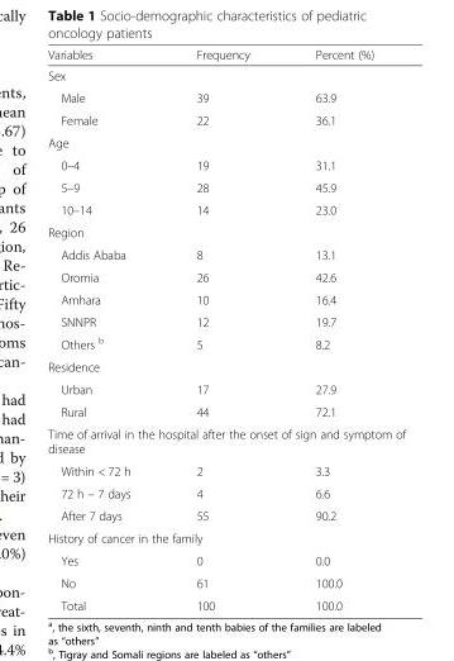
<table><thead><tr><td>Variables</td><td>Frequency</td><td>Percent (%)</td></tr></thead><tbody><tr><td colspan="3">Sex</td></tr><tr><td>Male</td><td>39</td><td>63.9</td></tr><tr><td>Female</td><td>22</td><td>36.1</td></tr><tr><td colspan="3">Age</td></tr><tr><td>0–4</td><td>19</td><td>31.1</td></tr><tr><td>5–9</td><td>28</td><td>45.9</td></tr><tr><td>10–14</td><td>14</td><td>23.0</td></tr><tr><td colspan="3">Region</td></tr><tr><td>Addis Ababa</td><td>8</td><td>13.1</td></tr><tr><td>Oromia</td><td>26</td><td>42.6</td></tr><tr><td>Amhara</td><td>10</td><td>16.4</td></tr><tr><td>SNNPR</td><td>12</td><td>19.7</td></tr><tr><td>Others <sup>b</sup></td><td>5</td><td>8.2</td></tr><tr><td colspan="3">Residence</td></tr><tr><td>Urban</td><td>17</td><td>27.9</td></tr><tr><td>Rural</td><td>44</td><td>72.1</td></tr><tr><td colspan="3">Time of arrival in the hospital after the onset of sign and symptom of disease</td></tr><tr><td>Within &lt; 72 h</td><td>2</td><td>3.3</td></tr><tr><td>72 h – 7 days</td><td>4</td><td>6.6</td></tr><tr><td>After 7 days</td><td>55</td><td>90.2</td></tr><tr><td colspan="3">History of cancer in the family</td></tr><tr><td>Yes</td><td>0</td><td>0.0</td></tr><tr><td>No</td><td>61</td><td>100.0</td></tr><tr><td>Total</td><td>100</td><td>100.0</td></tr></tbody></table>